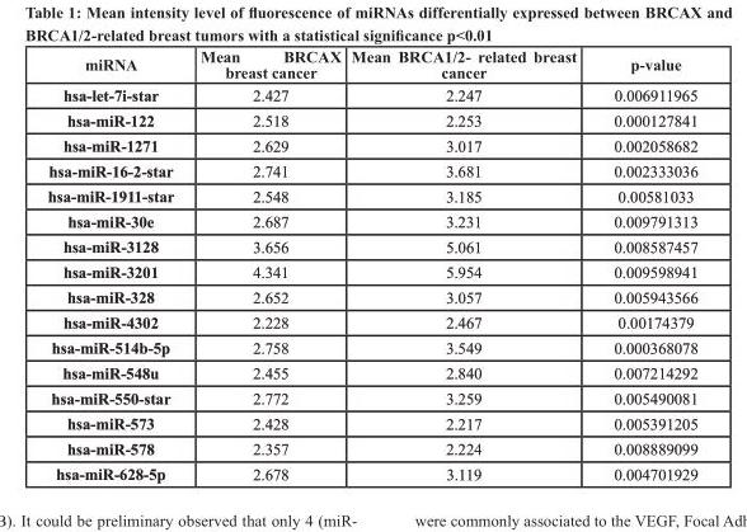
<table><thead><tr><td>miRNA</td><td>Mean BRCAX breast cancer</td><td>Mean BRCA1/2- related breast cancer</td><td>p-value</td></tr></thead><tbody><tr><td>hsa-let-7i-star</td><td>2.427</td><td>2.247</td><td>0.006911965</td></tr><tr><td>hsa-miR-122</td><td>2.518</td><td>2.253</td><td>0.000127841</td></tr><tr><td>hsa-miR-1271</td><td>2.629</td><td>3.017</td><td>0.002058682</td></tr><tr><td>hsa-miR-16-2-star</td><td>2.741</td><td>3.681</td><td>0.002333036</td></tr><tr><td>hsa-miR-1911-star</td><td>2.548</td><td>3.185</td><td>0.00581033</td></tr><tr><td>hsa-miR-30e</td><td>2.687</td><td>3.231</td><td>0.009791313</td></tr><tr><td>hsa-miR-3128</td><td>3.656</td><td>5.061</td><td>0.008587457</td></tr><tr><td>hsa-miR-3201</td><td>4.341</td><td>5.954</td><td>0.009598941</td></tr><tr><td>hsa-miR-328</td><td>2.652</td><td>3.057</td><td>0.005943566</td></tr><tr><td>hsa-miR-4302</td><td>2.228</td><td>2.467</td><td>0.00174379</td></tr><tr><td>hsa-miR-514b-5p</td><td>2.758</td><td>3.549</td><td>0.000368078</td></tr><tr><td>hsa-miR-548u</td><td>2.455</td><td>2.840</td><td>0.007214292</td></tr><tr><td>hsa-miR-550-star</td><td>2.772</td><td>3.259</td><td>0.005490081</td></tr><tr><td>hsa-miR-573</td><td>2.428</td><td>2.217</td><td>0.005391205</td></tr><tr><td>hsa-miR-578</td><td>2.357</td><td>2.224</td><td>0.008889099</td></tr><tr><td>hsa-miR-628-5p</td><td>2.678</td><td>3.119</td><td>0.004701929</td></tr></tbody></table>